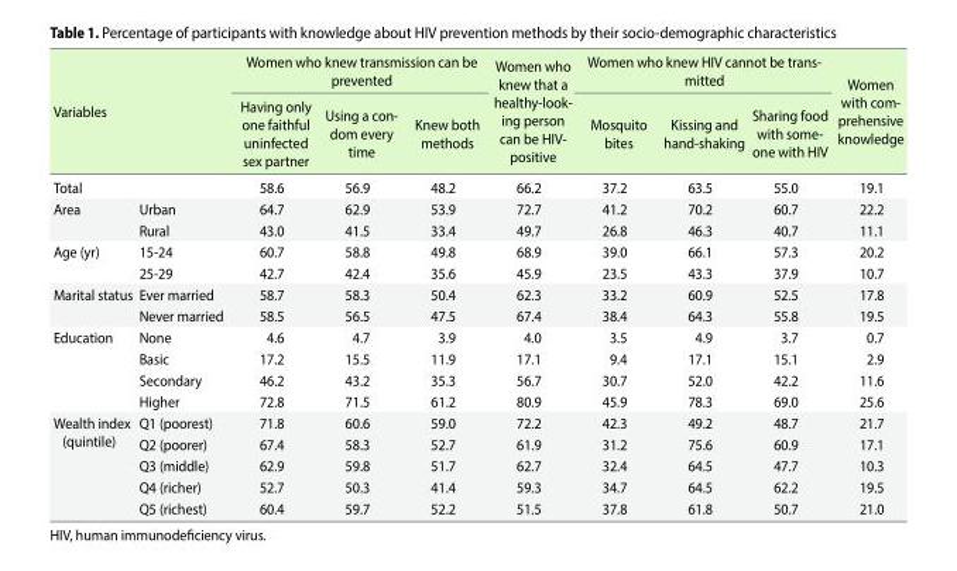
<table><thead><tr><td rowspan="2" colspan="2">Variables</td><td colspan="3">Women who knew transmission can be prevented</td><td rowspan="3">Women who knew that a healthy-look- ing person can be HIV- positive 66.2</td><td colspan="3">Women who knew HIV cannot be trans- mitted</td><td rowspan="3">Women with com- prehensive knowledge 19.1</td></tr><tr><td rowspan="2">Having only one faithful uninfected sex partner 58.6</td><td rowspan="2">Using a con- dom every time 56.9</td><td rowspan="2">Knew both methods 48.2</td><td rowspan="2">Mosquito bites 37.2</td><td rowspan="2">Kissing and hand-shaking 63.5</td><td rowspan="2">Sharing food with some- one with HIV 55.0</td></tr><tr><td>Total</td><td></td></tr></thead><tbody><tr><td rowspan="2">Area</td><td>Urban</td><td>64.7</td><td>62.9</td><td>53.9</td><td>72.7</td><td>41.2</td><td>70.2</td><td>60.7</td><td>22.2</td></tr><tr><td>Rural</td><td>43.0</td><td>41.5</td><td>33.4</td><td>49.7</td><td>26.8</td><td>46.3</td><td>40.7</td><td>11.1</td></tr><tr><td rowspan="2">Age (yr)</td><td>15-24</td><td>60.7</td><td>58.8</td><td>49.8</td><td>68.9</td><td>39.0</td><td>66.1</td><td>57.3</td><td>20.2</td></tr><tr><td>25-29</td><td>42.7</td><td>42.4</td><td>35.6</td><td>45.9</td><td>23.5</td><td>43.3</td><td>37.9</td><td>10.7</td></tr><tr><td rowspan="2">Marital status</td><td>Ever married</td><td>58.7</td><td>58.3</td><td>50.4</td><td>62.3</td><td>33.2</td><td>60.9</td><td>52.5</td><td>17.8</td></tr><tr><td>Never married</td><td>58.5</td><td>56.5</td><td>47.5</td><td>67.4</td><td>38.4</td><td>64.3</td><td>55.8</td><td>19.5</td></tr><tr><td rowspan="4">Education</td><td>None</td><td>4.6</td><td>4.7</td><td>3.9</td><td>4.0</td><td>3.5</td><td>4.9</td><td>3.7</td><td>0.7</td></tr><tr><td>Basic</td><td>17.2</td><td>15.5</td><td>11.9</td><td>17.1</td><td>9.4</td><td>17.1</td><td>15.1</td><td>2.9</td></tr><tr><td>Secondary</td><td>46.2</td><td>43.2</td><td>35.3</td><td>56.7</td><td>30.7</td><td>52.0</td><td>42.2</td><td>11.6</td></tr><tr><td>Higher</td><td>72.8</td><td>71.5</td><td>61.2</td><td>80.9</td><td>45.9</td><td>78.3</td><td>69.0</td><td>25.6</td></tr><tr><td rowspan="5">Wealth index (quintile)</td><td>Q1 (poorest)</td><td>71.8</td><td>60.6</td><td>59.0</td><td>72.2</td><td>42.3</td><td>49.2</td><td>48.7</td><td>21.7</td></tr><tr><td>Q2 (poorer)</td><td>67.4</td><td>58.3</td><td>52.7</td><td>61.9</td><td>31.2</td><td>75.6</td><td>60.9</td><td>17.1</td></tr><tr><td>Q3 (middle)</td><td>62.9</td><td>59.8</td><td>51.7</td><td>62.7</td><td>32.4</td><td>64.5</td><td>47.7</td><td>10.3</td></tr><tr><td>Q4 (richer)</td><td>52.7</td><td>50.3</td><td>41.4</td><td>59.3</td><td>34.7</td><td>64.5</td><td>62.2</td><td>19.5</td></tr><tr><td>Q5 (richest)</td><td>60.4</td><td>59.7</td><td>52.2</td><td>51.5</td><td>37.8</td><td>61.8</td><td>50.7</td><td>21.0</td></tr></tbody></table>